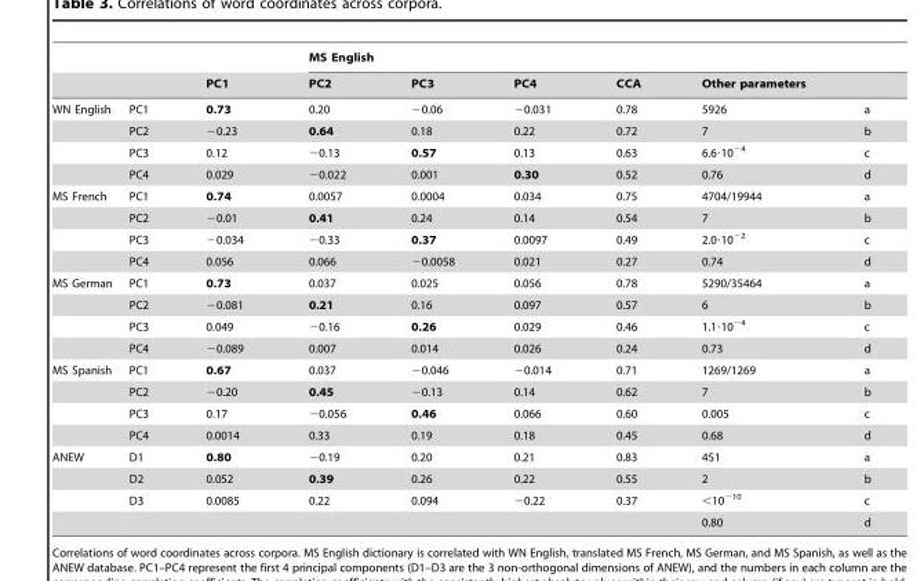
<table><thead><tr><td rowspan="3">WN English</td><td rowspan="3">PC1</td><td rowspan="3">PC1 0.73</td><td colspan="6">MS English</td></tr><tr><td rowspan="2">PC2 0.20</td><td rowspan="2">PC3 −0.06</td><td rowspan="2">PC4 −0.031</td><td rowspan="2">CCA 0.78</td><td colspan="2">Other parameters</td></tr><tr><td>5926</td><td>a</td></tr></thead><tbody><tr><td></td><td>PC2</td><td>−0.23</td><td>0.64</td><td>0.18</td><td>0.22</td><td>0.72</td><td>7</td><td>b</td></tr><tr><td></td><td>PC3</td><td>0.12</td><td>−0.13</td><td>0.57</td><td>0.13</td><td>0.63</td><td>6.6·10<sup>−4</sup></td><td>c</td></tr><tr><td></td><td>PC4</td><td>0.029</td><td>−0.022</td><td>0.001</td><td>0.30</td><td>0.52</td><td>0.76</td><td>d</td></tr><tr><td rowspan="4">MS French</td><td>PC1</td><td>0.74</td><td>0.0057</td><td>0.0004</td><td>0.034</td><td>0.75</td><td>4704/19944</td><td>a</td></tr><tr><td>PC2</td><td>−0.01</td><td>0.41</td><td>0.24</td><td>0.14</td><td>0.54</td><td>7</td><td>b</td></tr><tr><td>PC3</td><td>−0.034</td><td>−0.33</td><td>0.37</td><td>0.0097</td><td>0.49</td><td>2.0·10<sup>−2</sup></td><td>c</td></tr><tr><td>PC4</td><td>0.056</td><td>0.066</td><td>−0.0058</td><td>0.021</td><td>0.27</td><td>0.74</td><td>d</td></tr><tr><td rowspan="4">MS German</td><td>PC1</td><td>0.73</td><td>0.037</td><td>0.025</td><td>0.056</td><td>0.78</td><td>5290/35464</td><td>a</td></tr><tr><td>PC2</td><td>−0.081</td><td>0.21</td><td>0.16</td><td>0.097</td><td>0.57</td><td>6</td><td>b</td></tr><tr><td>PC3</td><td>0.049</td><td>−0.16</td><td>0.26</td><td>0.029</td><td>0.46</td><td>1.1·10<sup>−4</sup></td><td>c</td></tr><tr><td>PC4</td><td>−0.089</td><td>0.007</td><td>0.014</td><td>0.026</td><td>0.24</td><td>0.73</td><td>d</td></tr><tr><td rowspan="4">MS Spanish</td><td>PC1</td><td>0.67</td><td>0.037</td><td>−0.046</td><td>−0.014</td><td>0.71</td><td>1269/1269</td><td>a</td></tr><tr><td>PC2</td><td>−0.20</td><td>0.45</td><td>−0.13</td><td>0.14</td><td>0.62</td><td>7</td><td>b</td></tr><tr><td>PC3</td><td>0.17</td><td>−0.056</td><td>0.46</td><td>0.066</td><td>0.60</td><td>0.005</td><td>c</td></tr><tr><td>PC4</td><td>0.0014</td><td>0.33</td><td>0.19</td><td>0.18</td><td>0.45</td><td>0.68</td><td>d</td></tr><tr><td rowspan="4">ANEW</td><td>D1</td><td>0.80</td><td>−0.19</td><td>0.20</td><td>0.21</td><td>0.83</td><td>451</td><td>a</td></tr><tr><td>D2</td><td>0.052</td><td>0.39</td><td>0.26</td><td>0.22</td><td>0.55</td><td>2</td><td>b</td></tr><tr><td>D3</td><td>0.0085</td><td>0.22</td><td>0.094</td><td>−0.22</td><td>0.37</td><td>&lt;10<sup>−10</sup></td><td>c</td></tr><tr><td colspan="6"></td><td>0.80</td><td>d</td></tr></tbody></table>